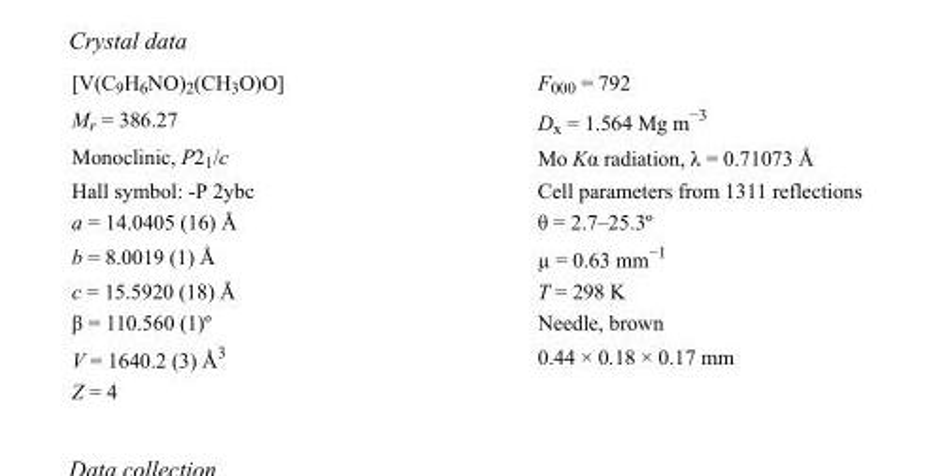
<table><tbody><tr><td>[V(C<sub>9</sub>H<sub>6</sub>NO)<sub>2</sub>(CH<sub>3</sub>O)O]</td><td>F000 = 792</td></tr><tr><td>M<sub>r</sub> = 386.27</td><td>D<sub>x</sub> = 1.564 Mg m<sup>−3</sup></td></tr><tr><td>Monoclinic, P2<sub>1</sub>/c</td><td>Mo Kα radiation, λ = 0.71073 Å</td></tr><tr><td>Hall symbol: -P 2ybc</td><td>Cell parameters from 1311 reflections</td></tr><tr><td>a = 14.0405 (16) Å</td><td>θ = 2.7–25.3º</td></tr><tr><td>b = 8.0019 (1) Å</td><td>µ = 0.63 mm<sup>−1</sup></td></tr><tr><td>c = 15.5920 (18) Å</td><td>T = 298 K</td></tr><tr><td>β = 110.560 (1)º</td><td>Needle, brown</td></tr><tr><td>V = 1640.2 (3) Å<sup>3</sup></td><td>0.44 × 0.18 × 0.17 mm</td></tr><tr><td>Z = 4</td><td></td></tr></tbody></table>